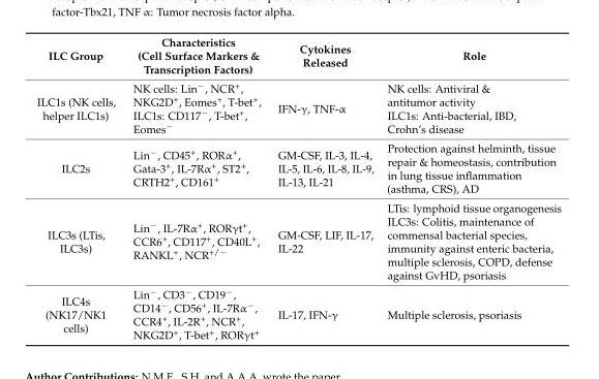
<table><thead><tr><td>ILC Group</td><td>Characteristics (Cell Surface Markers &amp; Transcription Factors)</td><td>Cytokines Released</td><td>Role</td></tr></thead><tbody><tr><td>ILC1s (NK cells, helper ILC1s)</td><td>NK cells: Lin<sup>−</sup>, NCR<sup>+</sup>, NKG2D<sup>+</sup>, Eomes<sup>+</sup>, T-bet<sup>+</sup>, ILC1s: CD117<sup>−</sup>, T-bet<sup>+</sup>, Eomes<sup>−</sup></td><td>IFN-γ, TNF-α</td><td>NK cells: Antiviral &amp; antitumor activity ILC1s: Anti-bacterial, IBD, Crohn’s disease</td></tr><tr><td>ILC2s</td><td>Lin<sup>−</sup>, CD45<sup>+</sup>, RORα<sup>+</sup>, Gata-3<sup>+</sup>, IL-7Rα<sup>+</sup>, ST2<sup>+</sup>, CRTH2<sup>+</sup>, CD161<sup>+</sup></td><td>GM-CSF, IL-3, IL-4, IL-5, IL-6, IL-8, IL-9, IL-13, IL-21</td><td>Protection against helminth, tissue repair &amp; homeostasis, contribution in lung tissue inflammation (asthma, CRS), AD</td></tr><tr><td>ILC3s (LTis, ILC3s)</td><td>Lin<sup>−</sup>, IL-7Rα<sup>+</sup>, RORγt<sup>+</sup>, CCR6<sup>+</sup>, CD117<sup>+</sup>, CD40L<sup>+</sup>, RANKL<sup>+</sup>, NCR<sup>+/−</sup></td><td>GM-CSF, LIF, IL-17, IL-22</td><td>LTis: lymphoid tissue organogenesis ILC3s: Colitis, maintenance of commensal bacterial species, immunity against enteric bacteria, multiple sclerosis, COPD, defense against GvHD, psoriasis</td></tr><tr><td>ILC4s (NK17/NK1 cells)</td><td>Lin<sup>−</sup>, CD3<sup>−</sup>, CD19<sup>−</sup>, CD14<sup>−</sup>, CD56<sup>+</sup>, IL-7Rα<sup>−</sup>, CCR4<sup>+</sup>, IL-2R<sup>+</sup>, NCR<sup>+</sup>, NKG2D<sup>+</sup>, T-bet<sup>+</sup>, RORγt<sup>+</sup></td><td>IL-17, IFN-γ</td><td>Multiple sclerosis, psoriasis</td></tr></tbody></table>